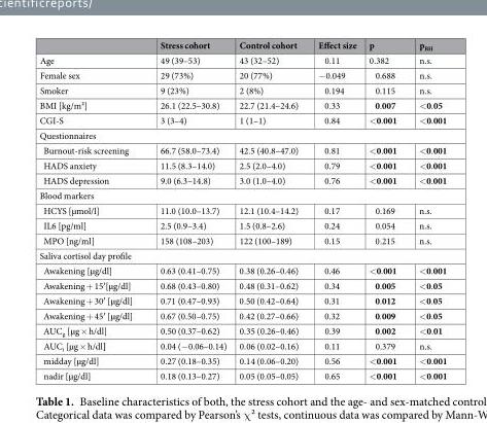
<table><thead><tr><td></td><td>Stress cohort</td><td>Control cohort</td><td>Effect size</td><td>p</td><td>p<sub>BH</sub></td></tr></thead><tbody><tr><td>Age</td><td>49 (39–53)</td><td>43 (32–52)</td><td>0.11</td><td>0.382</td><td>n.s.</td></tr><tr><td>Female sex</td><td>29 (73%)</td><td>20 (77%)</td><td>−0.049</td><td>0.688</td><td>n.s.</td></tr><tr><td>Smoker</td><td>9 (23%)</td><td>2 (8%)</td><td>0.194</td><td>0.115</td><td>n.s.</td></tr><tr><td>BMI [kg/m²]</td><td>26.1 (22.5–30.8)</td><td>22.7 (21.4–24.6)</td><td>0.33</td><td>0.007</td><td>&lt;0.05</td></tr><tr><td>CGI-S</td><td>3 (3–4)</td><td>1 (1–1)</td><td>0.84</td><td>&lt;0.001</td><td>&lt;0.001</td></tr><tr><td colspan="6">Questionnaires</td></tr><tr><td>Burnout-risk screening</td><td>66.7 (58.0–73.4)</td><td>42.5 (40.8–47.0)</td><td>0.81</td><td>&lt;0.001</td><td>&lt;0.001</td></tr><tr><td>HADS anxiety</td><td>11.5 (8.3–14.0)</td><td>2.5 (2.0–4.0)</td><td>0.79</td><td>&lt;0.001</td><td>&lt;0.001</td></tr><tr><td>HADS depression</td><td>9.0 (6.3–14.8)</td><td>3.0 (1.0–4.0)</td><td>0.76</td><td>&lt;0.001</td><td>&lt;0.001</td></tr><tr><td colspan="6">Blood markers</td></tr><tr><td>HCYS [µmol/l]</td><td>11.0 (10.0–13.7)</td><td>12.1 (10.4–14.2)</td><td>0.17</td><td>0.169</td><td>n.s.</td></tr><tr><td>IL6 [pg/ml]</td><td>2.5 (0.9–3.4)</td><td>1.5 (0.8–2.6)</td><td>0.24</td><td>0.054</td><td>n.s.</td></tr><tr><td>MPO [ng/ml]</td><td>158 (108–203)</td><td>122 (100–189)</td><td>0.15</td><td>0.215</td><td>n.s.</td></tr><tr><td colspan="6">Saliva cortisol day profile</td></tr><tr><td>Awakening [µg/dl]</td><td>0.63 (0.41–0.75)</td><td>0.38 (0.26–0.46)</td><td>0.46</td><td>&lt;0.001</td><td>&lt;0.001</td></tr><tr><td>Awakening + 15′[µg/dl]</td><td>0.68 (0.43–0.80)</td><td>0.48 (0.31–0.62)</td><td>0.34</td><td>0.005</td><td>&lt;0.05</td></tr><tr><td>Awakening + 30′ [µg/dl]</td><td>0.71 (0.47–0.93)</td><td>0.50 (0.42–0.64)</td><td>0.31</td><td>0.012</td><td>&lt;0.05</td></tr><tr><td>Awakening + 45′ [µg/dl]</td><td>0.67 (0.50–0.75)</td><td>0.42 (0.27–0.66)</td><td>0.32</td><td>0.009</td><td>&lt;0.05</td></tr><tr><td>AUC<sub>g</sub> [µg × h/dl]</td><td>0.50 (0.37–0.62)</td><td>0.35 (0.26–0.46)</td><td>0.39</td><td>0.002</td><td>&lt;0.01</td></tr><tr><td>AUC<sub>i</sub> [µg × h/dl]</td><td>0.04 (−0.06–0.14)</td><td>0.06 (0.02–0.16)</td><td>0.11</td><td>0.379</td><td>n.s.</td></tr><tr><td>midday [µg/dl]</td><td>0.27 (0.18–0.35)</td><td>0.14 (0.06–0.20)</td><td>0.56</td><td>&lt;0.001</td><td>&lt;0.001</td></tr><tr><td>nadir [µg/dl]</td><td>0.18 (0.13–0.27)</td><td>0.05 (0.05–0.05)</td><td>0.65</td><td>&lt;0.001</td><td>&lt;0.001</td></tr></tbody></table>